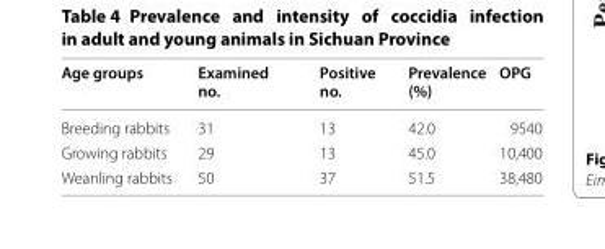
<table><thead><tr><td>Age groups</td><td>Examined no.</td><td>Positive no.</td><td>Prevalence (%)</td><td>OPG</td></tr></thead><tbody><tr><td>Breeding rabbits</td><td>31</td><td>13</td><td>42.0</td><td>9540</td></tr><tr><td>Growing rabbits</td><td>29</td><td>13</td><td>45.0</td><td>10,400</td></tr><tr><td>Weanling rabbits</td><td>50</td><td>37</td><td>51.5</td><td>38,480</td></tr></tbody></table>